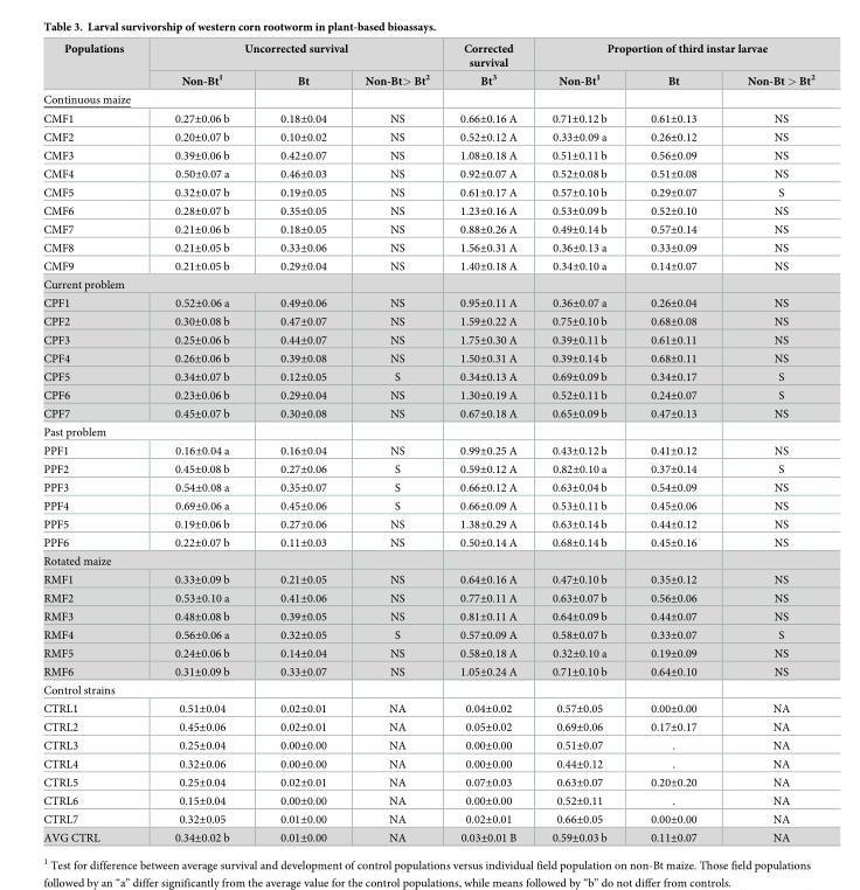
<table><thead><tr><td rowspan="2">Populations</td><td colspan="3">Uncorrected survival</td><td rowspan="2">Corrected survival Bt<sup>3</sup></td><td colspan="3">Proportion of third instar larvae</td></tr><tr><td>Non-Bt<sup>1</sup></td><td>Bt</td><td>Non-Bt&gt; Bt<sup>2</sup></td><td>Non-Bt<sup>1</sup></td><td>Bt</td><td>Non-Bt &gt; Bt<sup>2</sup></td></tr></thead><tbody><tr><td colspan="8">Continuous maize</td></tr><tr><td>CMF1</td><td>0.27±0.06 b</td><td>0.18±0.04</td><td>NS</td><td>0.66±0.16 A</td><td>0.71±0.12 b</td><td>0.61±0.13</td><td>NS</td></tr><tr><td>CMF2</td><td>0.20±0.07 b</td><td>0.10±0.02</td><td>NS</td><td>0.52±0.12 A</td><td>0.33±0.09 a</td><td>0.26±0.12</td><td>NS</td></tr><tr><td>CMF3</td><td>0.39±0.06 b</td><td>0.42±0.07</td><td>NS</td><td>1.08±0.18 A</td><td>0.51±0.11 b</td><td>0.56±0.09</td><td>NS</td></tr><tr><td>CMF4</td><td>0.50±0.07 a</td><td>0.46±0.03</td><td>NS</td><td>0.92±0.07 A</td><td>0.52±0.08 b</td><td>0.51±0.08</td><td>NS</td></tr><tr><td>CMF5</td><td>0.32±0.07 b</td><td>0.19±0.05</td><td>NS</td><td>0.61±0.17 A</td><td>0.57±0.10 b</td><td>0.29±0.07</td><td>S</td></tr><tr><td>CMF6</td><td>0.28±0.07 b</td><td>0.35±0.05</td><td>NS</td><td>1.23±0.16 A</td><td>0.53±0.09 b</td><td>0.52±0.10</td><td>NS</td></tr><tr><td>CMF7</td><td>0.21±0.06 b</td><td>0.18±0.05</td><td>NS</td><td>0.88±0.26 A</td><td>0.49±0.14 b</td><td>0.57±0.14</td><td>NS</td></tr><tr><td>CMF8</td><td>0.21±0.05 b</td><td>0.33±0.06</td><td>NS</td><td>1.56±0.31 A</td><td>0.36±0.13 a</td><td>0.33±0.09</td><td>NS</td></tr><tr><td>CMF9</td><td>0.21±0.05 b</td><td>0.29±0.04</td><td>NS</td><td>1.40±0.18 A</td><td>0.34±0.10 a</td><td>0.14±0.07</td><td>NS</td></tr><tr><td colspan="8">Current problem</td></tr><tr><td>CPF1</td><td>0.52±0.06 a</td><td>0.49±0.06</td><td>NS</td><td>0.95±0.11 A</td><td>0.36±0.07 a</td><td>0.26±0.04</td><td>NS</td></tr><tr><td>CPF2</td><td>0.30±0.08 b</td><td>0.47±0.07</td><td>NS</td><td>1.59±0.22 A</td><td>0.75±0.10 b</td><td>0.68±0.08</td><td>NS</td></tr><tr><td>CPF3</td><td>0.25±0.06 b</td><td>0.44±0.07</td><td>NS</td><td>1.75±0.30 A</td><td>0.39±0.11 b</td><td>0.61±0.11</td><td>NS</td></tr><tr><td>CPF4</td><td>0.26±0.06 b</td><td>0.39±0.08</td><td>NS</td><td>1.50±0.31 A</td><td>0.39±0.14 b</td><td>0.68±0.11</td><td>NS</td></tr><tr><td>CPF5</td><td>0.34±0.07 b</td><td>0.12±0.05</td><td>S</td><td>0.34±0.13 A</td><td>0.69±0.09 b</td><td>0.34±0.17</td><td>S</td></tr><tr><td>CPF6</td><td>0.23±0.06 b</td><td>0.29±0.04</td><td>NS</td><td>1.30±0.19 A</td><td>0.52±0.11 b</td><td>0.24±0.07</td><td>S</td></tr><tr><td>CPF7</td><td>0.45±0.07 b</td><td>0.30±0.08</td><td>NS</td><td>0.67±0.18 A</td><td>0.65±0.09 b</td><td>0.47±0.13</td><td>NS</td></tr><tr><td colspan="8">Past problem</td></tr><tr><td>PPF1</td><td>0.16±0.04 a</td><td>0.16±0.04</td><td>NS</td><td>0.99±0.25 A</td><td>0.43±0.12 b</td><td>0.41±0.12</td><td>NS</td></tr><tr><td>PPF2</td><td>0.45±0.08 b</td><td>0.27±0.06</td><td>S</td><td>0.59±0.12 A</td><td>0.82±0.10 a</td><td>0.37±0.14</td><td>S</td></tr><tr><td>PPF3</td><td>0.54±0.08 a</td><td>0.35±0.07</td><td>S</td><td>0.66±0.12 A</td><td>0.63±0.04 b</td><td>0.54±0.09</td><td>NS</td></tr><tr><td>PPF4</td><td>0.69±0.06 a</td><td>0.45±0.06</td><td>S</td><td>0.66±0.09 A</td><td>0.53±0.11 b</td><td>0.45±0.06</td><td>NS</td></tr><tr><td>PPF5</td><td>0.19±0.06 b</td><td>0.27±0.06</td><td>NS</td><td>1.38±0.29 A</td><td>0.63±0.14 b</td><td>0.44±0.12</td><td>NS</td></tr><tr><td>PPF6</td><td>0.22±0.07 b</td><td>0.11±0.03</td><td>NS</td><td>0.50±0.14 A</td><td>0.68±0.14 b</td><td>0.45±0.16</td><td>NS</td></tr><tr><td colspan="8">Rotated maize</td></tr><tr><td>RMF1</td><td>0.33±0.09 b</td><td>0.21±0.05</td><td>NS</td><td>0.64±0.16 A</td><td>0.47±0.10 b</td><td>0.35±0.12</td><td>NS</td></tr><tr><td>RMF2</td><td>0.53±0.10 a</td><td>0.41±0.06</td><td>NS</td><td>0.77±0.11 A</td><td>0.63±0.07 b</td><td>0.56±0.06</td><td>NS</td></tr><tr><td>RMF3</td><td>0.48±0.08 b</td><td>0.39±0.05</td><td>NS</td><td>0.81±0.11 A</td><td>0.64±0.09 b</td><td>0.44±0.07</td><td>NS</td></tr><tr><td>RMF4</td><td>0.56±0.06 a</td><td>0.32±0.05</td><td>S</td><td>0.57±0.09 A</td><td>0.58±0.07 b</td><td>0.33±0.07</td><td>S</td></tr><tr><td>RMF5</td><td>0.24±0.06 b</td><td>0.14±0.04</td><td>NS</td><td>0.58±0.18 A</td><td>0.32±0.10 a</td><td>0.19±0.09</td><td>NS</td></tr><tr><td>RMF6</td><td>0.31±0.09 b</td><td>0.33±0.07</td><td>NS</td><td>1.05±0.24 A</td><td>0.71±0.10 b</td><td>0.64±0.10</td><td>NS</td></tr><tr><td colspan="8">Control strains</td></tr><tr><td>CTRL1</td><td>0.51±0.04</td><td>0.02±0.01</td><td>NA</td><td>0.04±0.02</td><td>0.57±0.05</td><td>0.00±0.00</td><td>NA</td></tr><tr><td>CTRL2</td><td>0.45±0.06</td><td>0.02±0.01</td><td>NA</td><td>0.05±0.02</td><td>0.69±0.06</td><td>0.17±0.17</td><td>NA</td></tr><tr><td>CTRL3</td><td>0.25±0.04</td><td>0.00±0.00</td><td>NA</td><td>0.00±0.00</td><td>0.51±0.07</td><td>.</td><td>NA</td></tr><tr><td>CTRL4</td><td>0.32±0.06</td><td>0.00±0.00</td><td>NA</td><td>0.00±0.00</td><td>0.44±0.12</td><td>.</td><td>NA</td></tr><tr><td>CTRL5</td><td>0.25±0.04</td><td>0.02±0.01</td><td>NA</td><td>0.07±0.03</td><td>0.63±0.07</td><td>0.20±0.20</td><td>NA</td></tr><tr><td>CTRL6</td><td>0.15±0.04</td><td>0.00±0.00</td><td>NA</td><td>0.00±0.00</td><td>0.52±0.11</td><td>.</td><td>NA</td></tr><tr><td>CTRL7</td><td>0.32±0.05</td><td>0.01±0.00</td><td>NA</td><td>0.02±0.01</td><td>0.66±0.05</td><td>0.00±0.00</td><td>NA</td></tr><tr><td>AVG CTRL</td><td>0.34±0.02 b</td><td>0.01±0.00</td><td>NA</td><td>0.03±0.01 B</td><td>0.59±0.03 b</td><td>0.11±0.07</td><td>NA</td></tr></tbody></table>